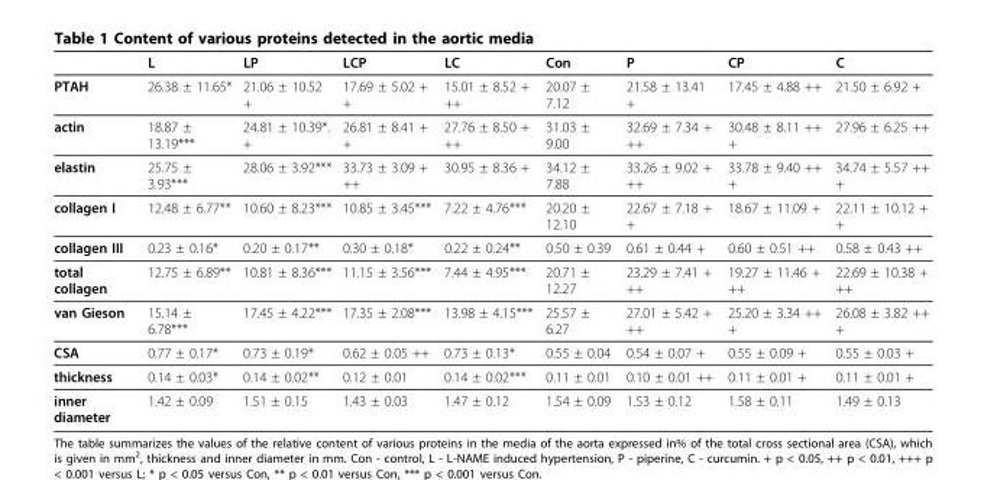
<table><thead><tr><td></td><td>L</td><td>LP</td><td>LCP</td><td>LC</td><td>Con</td><td>P</td><td>CP</td><td>C</td></tr></thead><tbody><tr><td>PTAH</td><td>26.38 ± 11.65*</td><td>21.06 ± 10.52 +</td><td>17.69 ± 5.02 + +</td><td>15.01 ± 8.52 + ++</td><td>20.07 ± 7.12</td><td>21.58 ± 13.41 +</td><td>17.45 ± 4.88 ++</td><td>21.50 ± 6.92 +</td></tr><tr><td>actin</td><td>18.87 ± 13.19***</td><td>24.81 ± 10.39*. +</td><td>26.81 ± 8.41 + +</td><td>27.76 ± 8.50 + ++</td><td>31.03 ± 9.00</td><td>32.69 ± 7.34 + ++</td><td>30.48 ± 8.11 ++ +</td><td>27.96 ± 6.25 ++</td></tr><tr><td>elastin</td><td>25.75 ± 3.93***</td><td>28.06 ± 3.92***</td><td>33.73 ± 3.09 + ++</td><td>30.95 ± 8.36 +</td><td>34.12 ± 7.88</td><td>33.26 ± 9.02 + ++</td><td>33.78 ± 9.40 ++ +</td><td>34.74 ± 5.57 ++ +</td></tr><tr><td>collagen I</td><td>12.48 ± 6.77**</td><td>10.60 ± 8.23***</td><td>10.85 ± 3.45***</td><td>7.22 ± 4.76***</td><td>20.20 ± 12.10</td><td>22.67 ± 7.18 + +</td><td>18.67 ± 11.09 +</td><td>22.11 ± 10.12 + +</td></tr><tr><td>collagen III</td><td>0.23 ± 0.16*</td><td>0.20 ± 0.17**</td><td>0.30 ± 0.18*</td><td>0.22 ± 0.24**</td><td>0.50 ± 0.39</td><td>0.61 ± 0.44 +</td><td>0.60 ± 0.51 ++</td><td>0.58 ± 0.43 ++</td></tr><tr><td>total collagen</td><td>12.75 ± 6.89**</td><td>10.81 ± 8.36***</td><td>11.15 ± 3.56***</td><td>7.44 ± 4.95***</td><td>20.71 ± 12.27</td><td>23.29 ± 7.41 + ++</td><td>19.27 ± 11.46 + ++</td><td>22.69 ± 10.38 + ++</td></tr><tr><td>van Gieson</td><td>15.14 ± 6.78***</td><td>17.45 ± 4.22***</td><td>17.35 ± 2.08***</td><td>13.98 ± 4.15***</td><td>25.57 ± 6.27</td><td>27.01 ± 5.42 + ++</td><td>25.20 ± 3.34 ++ +</td><td>26.08 ± 3.82 ++ +</td></tr><tr><td>CSA</td><td>0.77 ± 0.17*</td><td>0.73 ± 0.19*</td><td>0.62 ± 0.05 ++</td><td>0.73 ± 0.13*</td><td>0.55 ± 0.04</td><td>0.54 ± 0.07 +</td><td>0.55 ± 0.09 +</td><td>0.55 ± 0.03 +</td></tr><tr><td>thickness</td><td>0.14 ± 0.03*</td><td>0.14 ± 0.02**</td><td>0.12 ± 0.01</td><td>0.14 ± 0.02***</td><td>0.11 ± 0.01</td><td>0.10 ± 0.01 ++</td><td>0.11 ± 0.01 +</td><td>0.11 ± 0.01 +</td></tr><tr><td>inner diameter</td><td>1.42 ± 0.09</td><td>1.51 ± 0.15</td><td>1.43 ± 0.03</td><td>1.47 ± 0.12</td><td>1.54 ± 0.09</td><td>1.53 ± 0.12</td><td>1.58 ± 0.11</td><td>1.49 ± 0.13</td></tr></tbody></table>